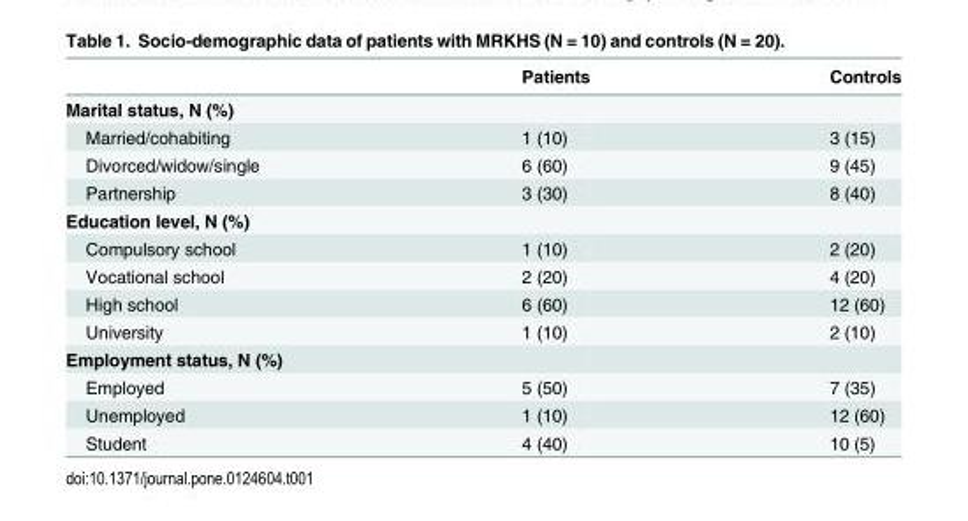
<table><thead><tr><td></td><td>Patients</td><td>Controls</td></tr></thead><tbody><tr><td colspan="3">Marital status, N (%)</td></tr><tr><td>Married/cohabiting</td><td>1 (10)</td><td>3 (15)</td></tr><tr><td>Divorced/widow/single</td><td>6 (60)</td><td>9 (45)</td></tr><tr><td>Partnership</td><td>3 (30)</td><td>8 (40)</td></tr><tr><td colspan="3">Education level, N (%)</td></tr><tr><td>Compulsory school</td><td>1 (10)</td><td>2 (20)</td></tr><tr><td>Vocational school</td><td>2 (20)</td><td>4 (20)</td></tr><tr><td>High school</td><td>6 (60)</td><td>12 (60)</td></tr><tr><td>University</td><td>1 (10)</td><td>2 (10)</td></tr><tr><td colspan="3">Employment status, N (%)</td></tr><tr><td>Employed</td><td>5 (50)</td><td>7 (35)</td></tr><tr><td>Unemployed</td><td>1 (10)</td><td>12 (60)</td></tr><tr><td>Student</td><td>4 (40)</td><td>10 (5)</td></tr></tbody></table>